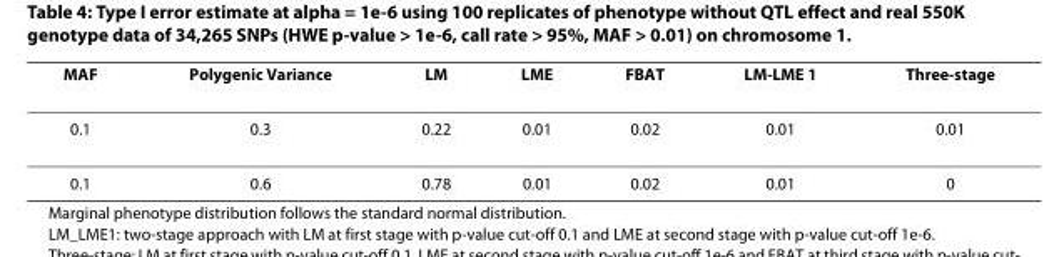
<table><thead><tr><td>MAF</td><td>Polygenic Variance</td><td>LM</td><td>LME</td><td>FBAT</td><td>LM-LME 1</td><td>Three-stage</td></tr></thead><tbody><tr><td>0.1</td><td>0.3</td><td>0.22</td><td>0.01</td><td>0.02</td><td>0.01</td><td>0.01</td></tr><tr><td>0.1</td><td>0.6</td><td>0.78</td><td>0.01</td><td>0.02</td><td>0.01</td><td>0</td></tr></tbody></table>